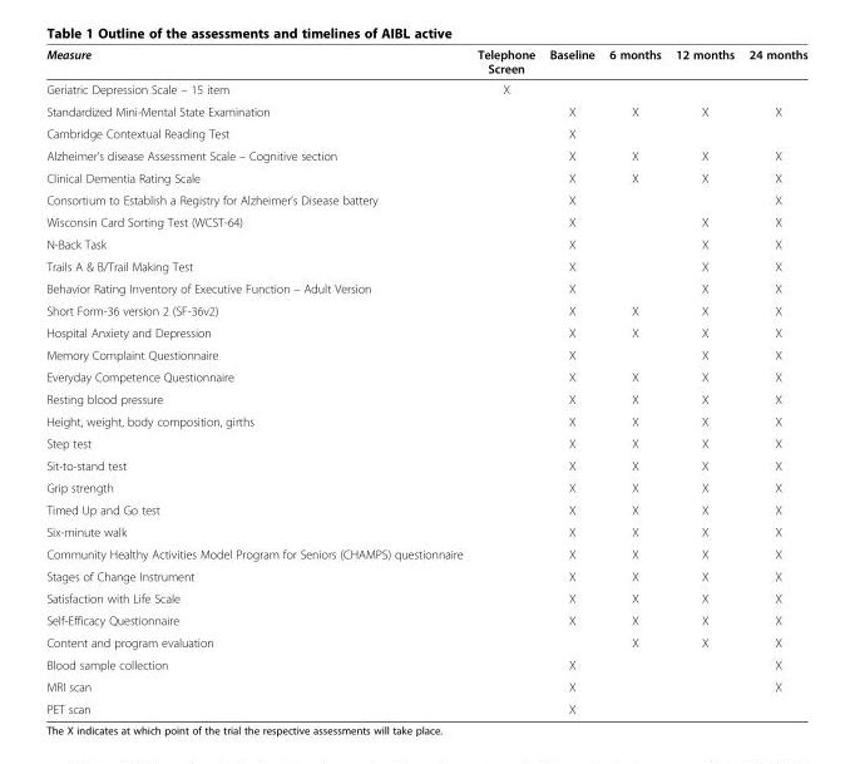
<table><thead><tr><td>Measure</td><td>Telephone Screen</td><td>Baseline</td><td>6 months</td><td>12 months</td><td>24 months</td></tr></thead><tbody><tr><td>Geriatric Depression Scale – 15 item</td><td>X</td><td></td><td></td><td></td><td></td></tr><tr><td>Standardized Mini-Mental State Examination</td><td></td><td>X</td><td>X</td><td>X</td><td>X</td></tr><tr><td>Cambridge Contextual Reading Test</td><td></td><td>X</td><td></td><td></td><td></td></tr><tr><td>Alzheimer’s disease Assessment Scale – Cognitive section</td><td></td><td>X</td><td>X</td><td>X</td><td>X</td></tr><tr><td>Clinical Dementia Rating Scale</td><td></td><td>X</td><td>X</td><td>X</td><td>X</td></tr><tr><td>Consortium to Establish a Registry for Alzheimer’s Disease battery</td><td></td><td>X</td><td></td><td></td><td>X</td></tr><tr><td>Wisconsin Card Sorting Test (WCST-64)</td><td></td><td>X</td><td></td><td>X</td><td>X</td></tr><tr><td>N-Back Task</td><td></td><td>X</td><td></td><td>X</td><td>X</td></tr><tr><td>Trails A &amp; B/Trail Making Test</td><td></td><td>X</td><td></td><td>X</td><td>X</td></tr><tr><td>Behavior Rating Inventory of Executive Function – Adult Version</td><td></td><td>X</td><td></td><td>X</td><td>X</td></tr><tr><td>Short Form-36 version 2 (SF-36v2)</td><td></td><td>X</td><td>X</td><td>X</td><td>X</td></tr><tr><td>Hospital Anxiety and Depression</td><td></td><td>X</td><td>X</td><td>X</td><td>X</td></tr><tr><td>Memory Complaint Questionnaire</td><td></td><td>X</td><td></td><td>X</td><td>X</td></tr><tr><td>Everyday Competence Questionnaire</td><td></td><td>X</td><td>X</td><td>X</td><td>X</td></tr><tr><td>Resting blood pressure</td><td></td><td>X</td><td>X</td><td>X</td><td>X</td></tr><tr><td>Height, weight, body composition, girths</td><td></td><td>X</td><td>X</td><td>X</td><td>X</td></tr><tr><td>Step test</td><td></td><td>X</td><td>X</td><td>X</td><td>X</td></tr><tr><td>Sit-to-stand test</td><td></td><td>X</td><td>X</td><td>X</td><td>X</td></tr><tr><td>Grip strength</td><td></td><td>X</td><td>X</td><td>X</td><td>X</td></tr><tr><td>Timed Up and Go test</td><td></td><td>X</td><td>X</td><td>X</td><td>X</td></tr><tr><td>Six-minute walk</td><td></td><td>X</td><td>X</td><td>X</td><td>X</td></tr><tr><td>Community Healthy Activities Model Program for Seniors (CHAMPS) questionnaire</td><td></td><td>X</td><td>X</td><td>X</td><td>X</td></tr><tr><td>Stages of Change Instrument</td><td></td><td>X</td><td>X</td><td>X</td><td>X</td></tr><tr><td>Satisfaction with Life Scale</td><td></td><td>X</td><td>X</td><td>X</td><td>X</td></tr><tr><td>Self-Efficacy Questionnaire</td><td></td><td>X</td><td>X</td><td>X</td><td>X</td></tr><tr><td>Content and program evaluation</td><td></td><td></td><td>X</td><td>X</td><td>X</td></tr><tr><td>Blood sample collection</td><td></td><td>X</td><td></td><td></td><td>X</td></tr><tr><td>MRI scan</td><td></td><td>X</td><td></td><td></td><td>X</td></tr><tr><td>PET scan</td><td></td><td>X</td><td></td><td></td><td></td></tr></tbody></table>